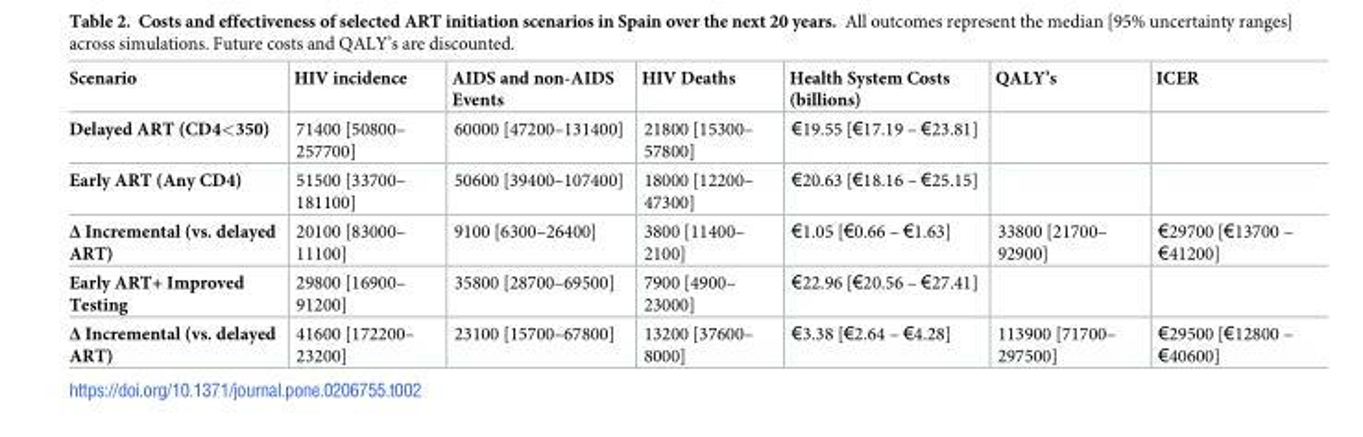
<table><thead><tr><td>Scenario</td><td>HIV incidence</td><td>AIDS and non-AIDS Events</td><td>HIV Deaths</td><td>Health System Costs (billions)</td><td>QALY’s</td><td>ICER</td></tr></thead><tbody><tr><td>Delayed ART (CD4&lt;350)</td><td>71400 [50800– 257700]</td><td>60000 [47200–131400]</td><td>21800 [15300– 57800]</td><td>€19.55 [€17.19 – €23.81]</td><td></td><td></td></tr><tr><td>Early ART (Any CD4)</td><td>51500 [33700– 181100]</td><td>50600 [39400–107400]</td><td>18000 [12200– 47300]</td><td>€20.63 [€18.16 – €25.15]</td><td></td><td></td></tr><tr><td>Δ Incremental (vs. delayed ART)</td><td>20100 [83000– 11100]</td><td>9100 [6300–26400]</td><td>3800 [11400– 2100]</td><td>€1.05 [€0.66 – €1.63]</td><td>33800 [21700– 92900]</td><td>€29700 [€13700 – €41200]</td></tr><tr><td>Early ART+ Improved Testing</td><td>29800 [16900– 91200]</td><td>35800 [28700–69500]</td><td>7900 [4900– 23000]</td><td>€22.96 [€20.56 – €27.41]</td><td></td><td></td></tr><tr><td>Δ Incremental (vs. delayed ART)</td><td>41600 [172200– 23200]</td><td>23100 [15700–67800]</td><td>13200 [37600– 8000]</td><td>€3.38 [€2.64 – €4.28]</td><td>113900 [71700– 297500]</td><td>€29500 [€12800 – €40600]</td></tr></tbody></table>